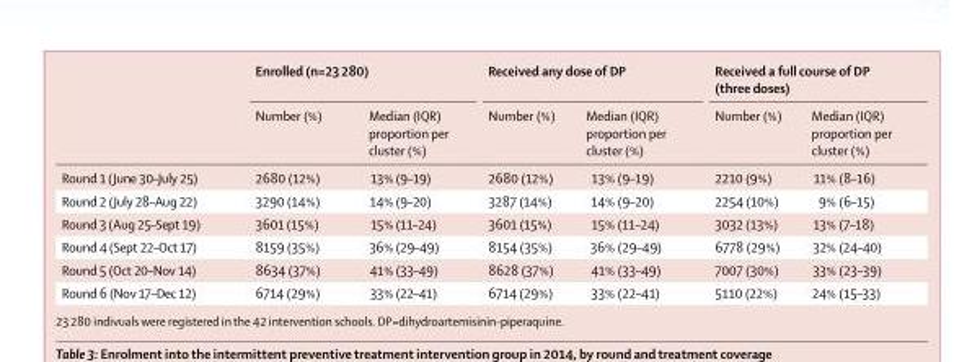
<table><thead><tr><td rowspan="2"></td><td colspan="2">Enrolled (n=23 280)</td><td colspan="2">Received any dose of DP</td><td colspan="2">Received a full course of DP (three doses)</td></tr><tr><td>Number (%)</td><td>Median (IQR) proportion per cluster (%)</td><td>Number (%)</td><td>Median (IQR) proportion per cluster (%)</td><td>Number (%)</td><td>Median (IQR) proportion per cluster (%)</td></tr></thead><tbody><tr><td>Round 1 (June 30–July 25)</td><td>2680 (12%)</td><td>13% (9–19)</td><td>2680 (12%)</td><td>13% (9–19)</td><td>2210 (9%)</td><td>11% (8–16)</td></tr><tr><td>Round 2 (July 28–Aug 22)</td><td>3290 (14%)</td><td>14% (9–20)</td><td>3287 (14%)</td><td>14% (9–20)</td><td>2254 (10%)</td><td>9% (6–15)</td></tr><tr><td>Round 3 (Aug 25–Sept 19)</td><td>3601 (15%)</td><td>15% (11–24)</td><td>3601 (15%)</td><td>15% (11–24)</td><td>3032 (13%)</td><td>13% (7–18)</td></tr><tr><td>Round 4 (Sept 22–Oct 17)</td><td>8159 (35%)</td><td>36% (29–49)</td><td>8154 (35%)</td><td>36% (29–49)</td><td>6778 (29%)</td><td>32% (24–40)</td></tr><tr><td>Round 5 (Oct 20–Nov 14)</td><td>8634 (37%)</td><td>41% (33–49)</td><td>8628 (37%)</td><td>41% (33–49)</td><td>7007 (30%)</td><td>33% (23–39)</td></tr><tr><td>Round 6 (Nov 17–Dec 12)</td><td>6714 (29%)</td><td>33% (22–41)</td><td>6714 (29%)</td><td>33% (22–41)</td><td>5110 (22%)</td><td>24% (15–33)</td></tr></tbody></table>